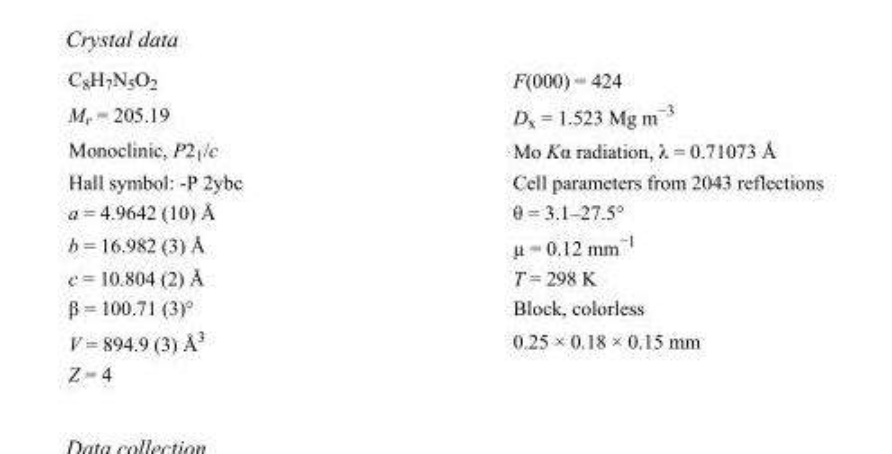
<table><tbody><tr><td>C<sub>8</sub>H<sub>7</sub>N<sub>5</sub>O<sub>2</sub></td><td>F(000) = 424</td></tr><tr><td>M<sub>r</sub> = 205.19</td><td>D<sub>x</sub> = 1.523 Mg m<sup>−3</sup></td></tr><tr><td>Monoclinic, P2<sub>1</sub>/c</td><td>Mo Kα radiation, λ = 0.71073 Å</td></tr><tr><td>Hall symbol: -P 2ybc</td><td>Cell parameters from 2043 reflections</td></tr><tr><td>a = 4.9642 (10) Å</td><td>θ = 3.1–27.5°</td></tr><tr><td>b = 16.982 (3) Å</td><td>µ = 0.12 mm<sup>−1</sup></td></tr><tr><td>c = 10.804 (2) Å</td><td>T = 298 K</td></tr><tr><td>β = 100.71 (3)°</td><td>Block, colorless</td></tr><tr><td>V = 894.9 (3) Å<sup>3</sup></td><td>0.25 × 0.18 × 0.15 mm</td></tr><tr><td>Z = 4</td><td></td></tr></tbody></table>